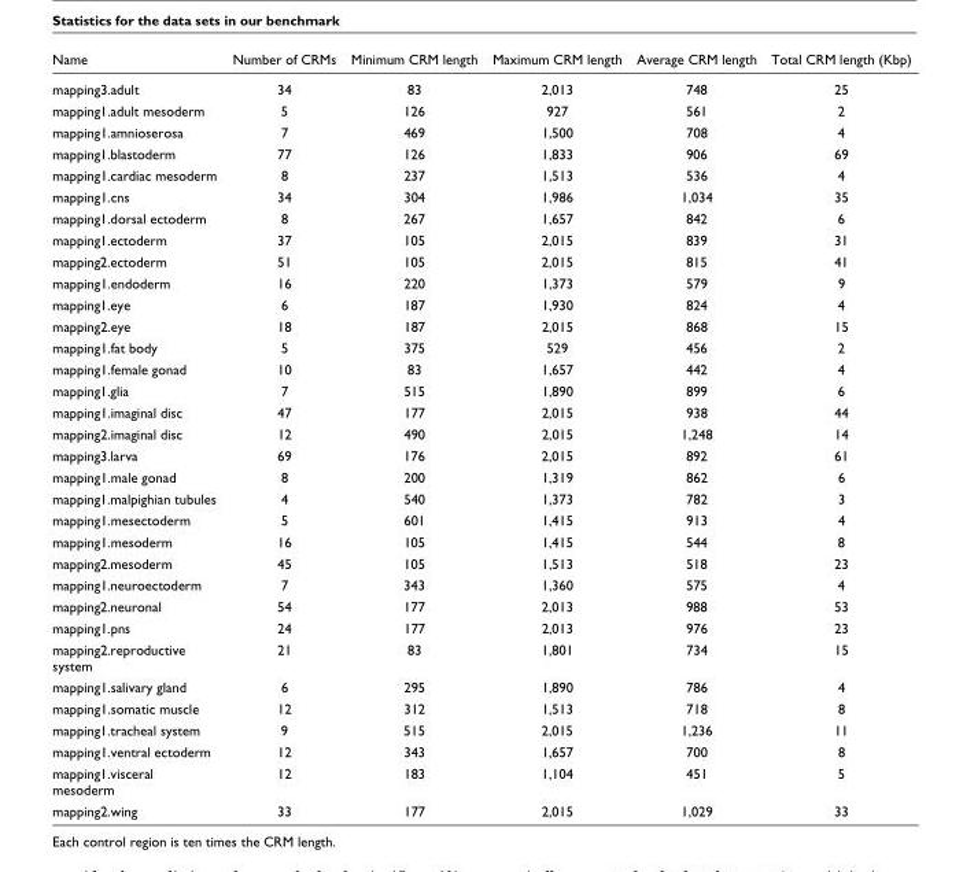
<table><thead><tr><td>Name</td><td>Number of CRMs</td><td>Minimum CRM length</td><td>Maximum CRM length</td><td>Average CRM length</td><td>Total CRM length (Kbp)</td></tr></thead><tbody><tr><td>mapping3.adult</td><td>34</td><td>83</td><td>2,013</td><td>748</td><td>25</td></tr><tr><td>mapping1.adult mesoderm</td><td>5</td><td>126</td><td>927</td><td>561</td><td>2</td></tr><tr><td>mapping1.amnioserosa</td><td>7</td><td>469</td><td>1,500</td><td>708</td><td>4</td></tr><tr><td>mapping1.blastoderm</td><td>77</td><td>126</td><td>1,833</td><td>906</td><td>69</td></tr><tr><td>mapping1.cardiac mesoderm</td><td>8</td><td>237</td><td>1,513</td><td>536</td><td>4</td></tr><tr><td>mapping1.cns</td><td>34</td><td>304</td><td>1,986</td><td>1,034</td><td>35</td></tr><tr><td>mapping1.dorsal ectoderm</td><td>8</td><td>267</td><td>1,657</td><td>842</td><td>6</td></tr><tr><td>mapping1.ectoderm</td><td>37</td><td>105</td><td>2,015</td><td>839</td><td>31</td></tr><tr><td>mapping2.ectoderm</td><td>51</td><td>105</td><td>2,015</td><td>815</td><td>41</td></tr><tr><td>mapping1.endoderm</td><td>16</td><td>220</td><td>1,373</td><td>579</td><td>9</td></tr><tr><td>mapping1.eye</td><td>6</td><td>187</td><td>1,930</td><td>824</td><td>4</td></tr><tr><td>mapping2.eye</td><td>18</td><td>187</td><td>2,015</td><td>868</td><td>15</td></tr><tr><td>mapping1.fat body</td><td>5</td><td>375</td><td>529</td><td>456</td><td>2</td></tr><tr><td>mapping1.female gonad</td><td>10</td><td>83</td><td>1,657</td><td>442</td><td>4</td></tr><tr><td>mapping1.glia</td><td>7</td><td>515</td><td>1,890</td><td>899</td><td>6</td></tr><tr><td>mapping1.imaginal disc</td><td>47</td><td>177</td><td>2,015</td><td>938</td><td>44</td></tr><tr><td>mapping2.imaginal disc</td><td>12</td><td>490</td><td>2,015</td><td>1,248</td><td>14</td></tr><tr><td>mapping3.larva</td><td>69</td><td>176</td><td>2,015</td><td>892</td><td>61</td></tr><tr><td>mapping1.male gonad</td><td>8</td><td>200</td><td>1,319</td><td>862</td><td>6</td></tr><tr><td>mapping1.malpighian tubules</td><td>4</td><td>540</td><td>1,373</td><td>782</td><td>3</td></tr><tr><td>mapping1.mesectoderm</td><td>5</td><td>601</td><td>1,415</td><td>913</td><td>4</td></tr><tr><td>mapping1.mesoderm</td><td>16</td><td>105</td><td>1,415</td><td>544</td><td>8</td></tr><tr><td>mapping2.mesoderm</td><td>45</td><td>105</td><td>1,513</td><td>518</td><td>23</td></tr><tr><td>mapping1.neuroectoderm</td><td>7</td><td>343</td><td>1,360</td><td>575</td><td>4</td></tr><tr><td>mapping2.neuronal</td><td>54</td><td>177</td><td>2,013</td><td>988</td><td>53</td></tr><tr><td>mapping1.pns</td><td>24</td><td>177</td><td>2,013</td><td>976</td><td>23</td></tr><tr><td>mapping2.reproductive system</td><td>21</td><td>83</td><td>1,801</td><td>734</td><td>15</td></tr><tr><td>mapping1.salivary gland</td><td>6</td><td>295</td><td>1,890</td><td>786</td><td>4</td></tr><tr><td>mapping1.somatic muscle</td><td>12</td><td>312</td><td>1,513</td><td>718</td><td>8</td></tr><tr><td>mapping1.tracheal system</td><td>9</td><td>515</td><td>2,015</td><td>1,236</td><td>11</td></tr><tr><td>mapping1.ventral ectoderm</td><td>12</td><td>343</td><td>1,657</td><td>700</td><td>8</td></tr><tr><td>mapping1.visceral mesoderm</td><td>12</td><td>183</td><td>1,104</td><td>451</td><td>5</td></tr><tr><td>mapping2.wing</td><td>33</td><td>177</td><td>2,015</td><td>1,029</td><td>33</td></tr></tbody></table>